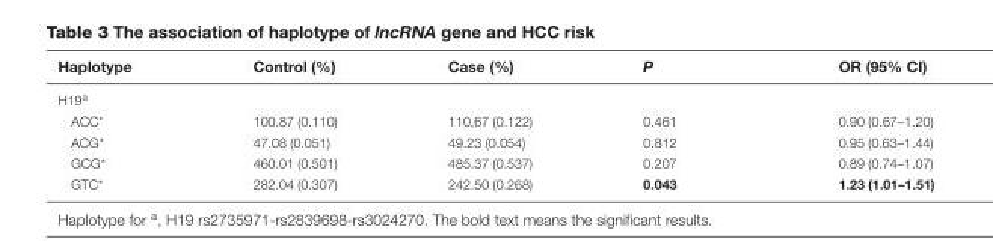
<table><thead><tr><td>Haplotype</td><td>Control (%)</td><td>Case (%)</td><td>P</td><td>OR (95% CI)</td></tr></thead><tbody><tr><td colspan="5">H19<sup>a</sup></td></tr><tr><td>ACC*</td><td>100.87 (0.110)</td><td>110,67 (0.122)</td><td>0.461</td><td>0.90 (0.67–1.20)</td></tr><tr><td>ACG*</td><td>47.08 (0.051)</td><td>49.23 (0.054)</td><td>0.812</td><td>0.95 (0.63–1.44)</td></tr><tr><td>GCG*</td><td>460.01 (0.501)</td><td>485.37 (0.537)</td><td>0.207</td><td>0.89 (0.74–1.07)</td></tr><tr><td>GTC*</td><td>282.04 (0.307)</td><td>242.50 (0.268)</td><td>0.043</td><td>1.23 (1.01–1.51)</td></tr></tbody></table>